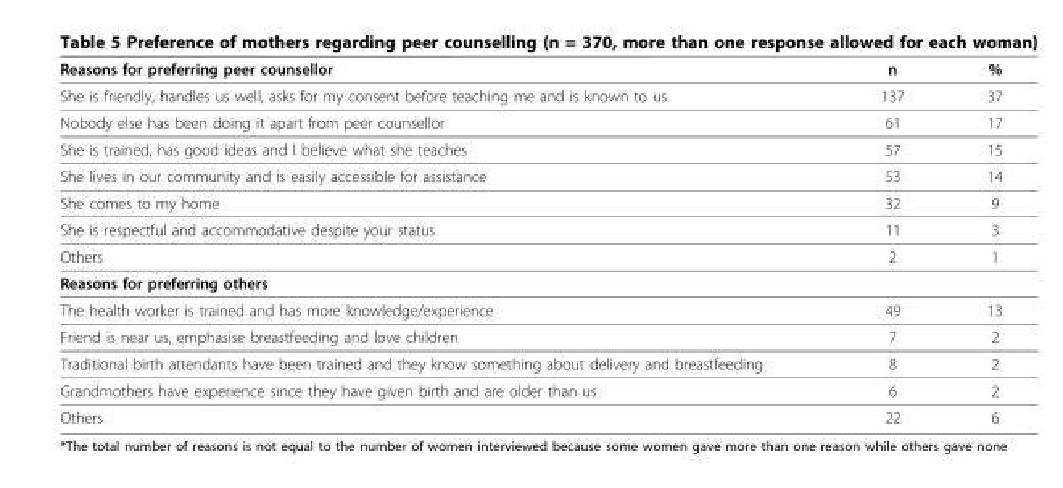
<table><thead><tr><td>Reasons for preferring peer counsellor</td><td>n</td><td>%</td></tr></thead><tbody><tr><td>She is friendly, handles us well, asks for my consent before teaching me and is known to us</td><td>137</td><td>37</td></tr><tr><td>Nobody else has been doing it apart from peer counsellor</td><td>61</td><td>17</td></tr><tr><td>She is trained, has good ideas and I believe what she teaches</td><td>57</td><td>15</td></tr><tr><td>She lives in our community and is easily accessible for assistance</td><td>53</td><td>14</td></tr><tr><td>She comes to my home</td><td>32</td><td>9</td></tr><tr><td>She is respectful and accommodative despite your status</td><td>11</td><td>3</td></tr><tr><td>Others</td><td>2</td><td>1</td></tr><tr><td colspan="3">Reasons for preferring others</td></tr><tr><td>The health worker is trained and has more knowledge/experience</td><td>49</td><td>13</td></tr><tr><td>Friend is near us, emphasise breastfeeding and love children</td><td>7</td><td>2</td></tr><tr><td>Traditional birth attendants have been trained and they know something about delivery and breastfeeding</td><td>8</td><td>2</td></tr><tr><td>Grandmothers have experience since they have given birth and are older than us</td><td>6</td><td>2</td></tr><tr><td>Others</td><td>22</td><td>6</td></tr></tbody></table>